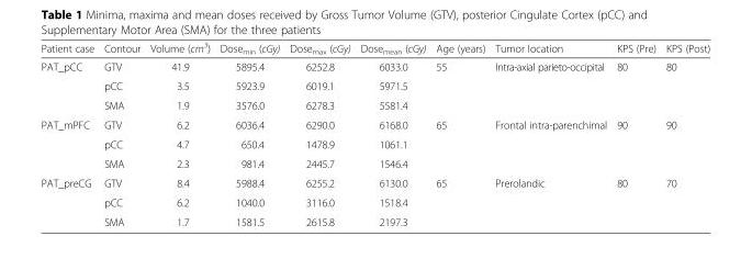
<table><thead><tr><td>Patient case</td><td>Contour</td><td>Volume (cm<sup>3</sup>)</td><td>Dose<sub>min</sub> (cGy)</td><td>Dose<sub>max</sub> (cGy)</td><td>Dose<sub>mean</sub> (cGy)</td><td>Age (years)</td><td>Tumor location</td><td>KPS (Pre)</td><td>KPS (Post)</td></tr></thead><tbody><tr><td rowspan="3">PAT_pCC</td><td>GTV</td><td>41.9</td><td>5895.4</td><td>6252.8</td><td>6033.0</td><td rowspan="3">55</td><td rowspan="3">Intra-axial parieto-occipital</td><td rowspan="3">80</td><td rowspan="3">80</td></tr><tr><td>pCC</td><td>3.5</td><td>5923.9</td><td>6019.1</td><td>5971.5</td></tr><tr><td>SMA</td><td>1.9</td><td>3576.0</td><td>6278.3</td><td>5581.4</td></tr><tr><td rowspan="3">PAT_mPFC</td><td>GTV</td><td>6.2</td><td>6036.4</td><td>6290.0</td><td>6168.0</td><td rowspan="3">65</td><td rowspan="3">Frontal intra-parenchimal</td><td rowspan="3">90</td><td rowspan="3">90</td></tr><tr><td>pCC</td><td>4.7</td><td>650.4</td><td>1478.9</td><td>1061.1</td></tr><tr><td>SMA</td><td>2.3</td><td>981.4</td><td>2445.7</td><td>1546.4</td></tr><tr><td rowspan="3">PAT_preCG</td><td>GTV</td><td>8.4</td><td>5988.4</td><td>6255.2</td><td>6130.0</td><td rowspan="3">65</td><td rowspan="3">Prerolandic</td><td rowspan="3">80</td><td rowspan="3">70</td></tr><tr><td>pCC</td><td>6.2</td><td>1040.0</td><td>3116.0</td><td>1518.4</td></tr><tr><td>SMA</td><td>1.7</td><td>1581.5</td><td>2615.8</td><td>2197.3</td></tr></tbody></table>